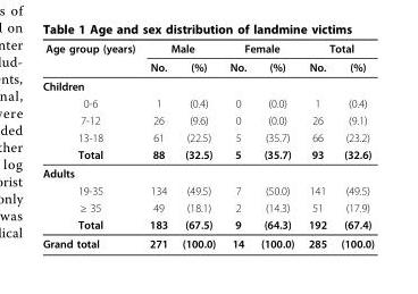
<table><thead><tr><td rowspan="2">Age group (years)</td><td colspan="2">Male</td><td colspan="2">Female</td><td colspan="2">Total</td></tr><tr><td>No.</td><td>(%)</td><td>No.</td><td>(%)</td><td>No.</td><td>(%)</td></tr></thead><tbody><tr><td colspan="7">Children</td></tr><tr><td>0-6</td><td>1</td><td>(0.4)</td><td>0</td><td>(0.0)</td><td>1</td><td>(0.4)</td></tr><tr><td>7-12</td><td>26</td><td>(9.6)</td><td>0</td><td>(0.0)</td><td>26</td><td>(9.1)</td></tr><tr><td>13-18</td><td>61</td><td>(22.5)</td><td>5</td><td>(35.7)</td><td>66</td><td>(23.2)</td></tr><tr><td>Total</td><td>88</td><td>(32.5)</td><td>5</td><td>(35.7)</td><td>93</td><td>(32.6)</td></tr><tr><td colspan="7">Adults</td></tr><tr><td>19-35</td><td>134</td><td>(49.5)</td><td>7</td><td>(50.0)</td><td>141</td><td>(49.5)</td></tr><tr><td>≥ 35</td><td>49</td><td>(18.1)</td><td>2</td><td>(14.3)</td><td>51</td><td>(17.9)</td></tr><tr><td>Total</td><td>183</td><td>(67.5)</td><td>9</td><td>(64.3)</td><td>192</td><td>(67.4)</td></tr><tr><td>Grand total</td><td>271</td><td>(100.0)</td><td>14</td><td>(100.0)</td><td>285</td><td>(100.0)</td></tr></tbody></table>